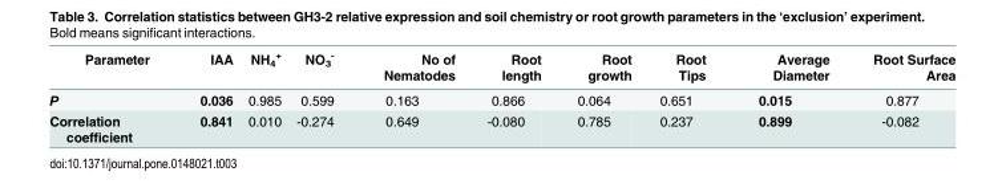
<table><thead><tr><td>Parameter</td><td>IAA</td><td>NH<sub>4</sub> <sup>+</sup></td><td>NO<sub>3</sub> <sup>-</sup></td><td>No of Nematodes</td><td>Root length</td><td>Root growth</td><td>Root Tips</td><td>Average Diameter</td><td>Root Surface Area</td></tr></thead><tbody><tr><td>P</td><td>0.036</td><td>0.985</td><td>0.599</td><td>0.163</td><td>0.866</td><td>0.064</td><td>0.651</td><td>0.015</td><td>0.877</td></tr><tr><td>Correlation coefficient</td><td>0.841</td><td>0.010</td><td>-0.274</td><td>0.649</td><td>-0.080</td><td>0.785</td><td>0.237</td><td>0.899</td><td>-0.082</td></tr></tbody></table>